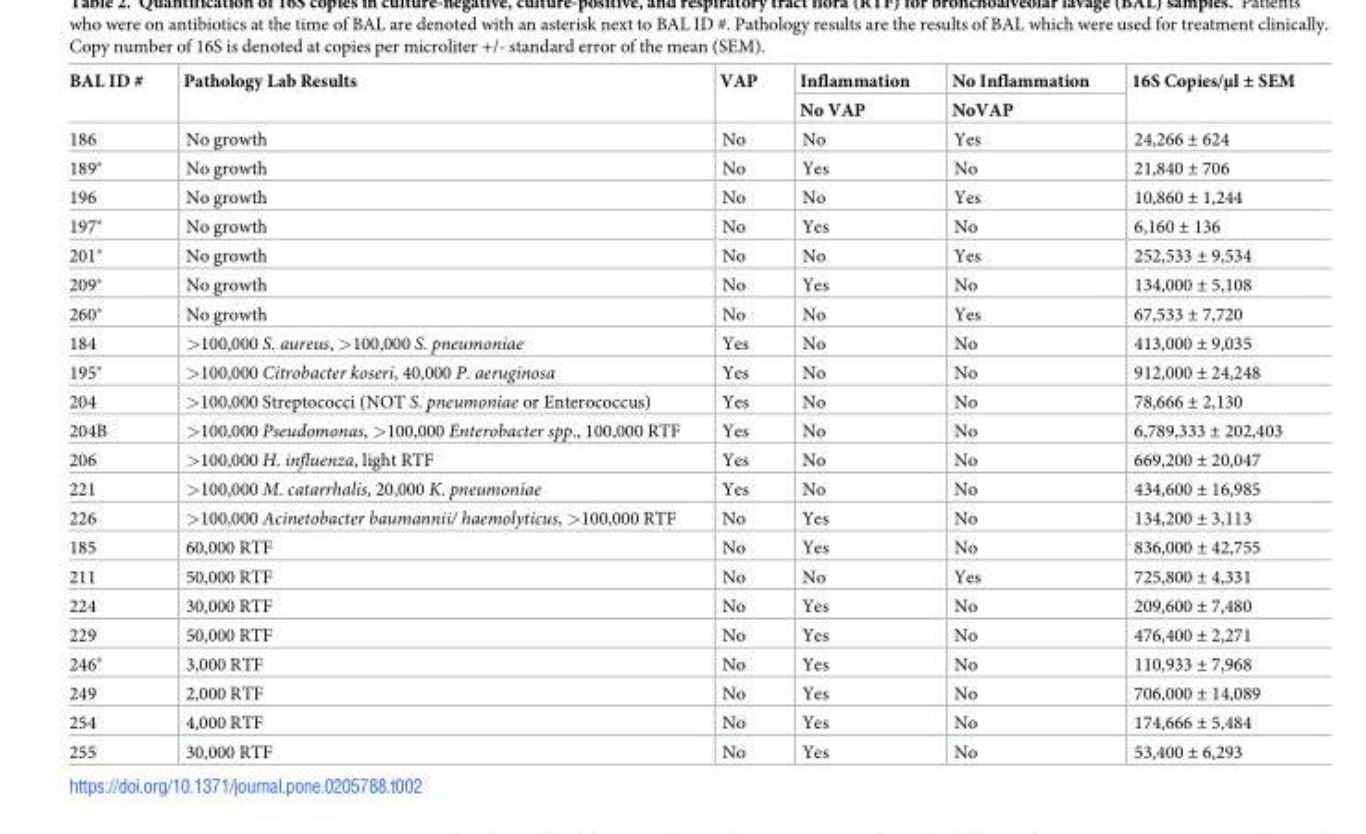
<table><thead><tr><td rowspan="2">BAL ID #</td><td rowspan="2">Pathology Lab Results</td><td rowspan="2">VAP</td><td rowspan="2">Inflammation No VAP</td><td rowspan="2">No Inflammation NoVAP</td><td rowspan="2">16S Copies/μl ± SEM</td></tr><tr></tr></thead><tbody><tr><td>186</td><td>No growth</td><td>No</td><td>No</td><td>Yes</td><td>24,266 ± 624</td></tr><tr><td>189*</td><td>No growth</td><td>No</td><td>Yes</td><td>No</td><td>21,840 ± 706</td></tr><tr><td>196</td><td>No growth</td><td>No</td><td>No</td><td>Yes</td><td>10,860 ± 1,244</td></tr><tr><td>197*</td><td>No growth</td><td>No</td><td>Yes</td><td>No</td><td>6,160 ± 136</td></tr><tr><td>201*</td><td>No growth</td><td>No</td><td>No</td><td>Yes</td><td>252,533 ± 9,534</td></tr><tr><td>209*</td><td>No growth</td><td>No</td><td>Yes</td><td>No</td><td>134,000 ± 5,108</td></tr><tr><td>260*</td><td>No growth</td><td>No</td><td>No</td><td>Yes</td><td>67,533 ± 7,720</td></tr><tr><td>184</td><td>&gt;100,000 S. aureus, &gt;100,000 S. pneumoniae</td><td>Yes</td><td>No</td><td>No</td><td>413,000 ± 9,035</td></tr><tr><td>195*</td><td>&gt;100,000 Citrobacter koseri, 40,000 P. aeruginosa</td><td>Yes</td><td>No</td><td>No</td><td>912,000 ± 24,248</td></tr><tr><td>204</td><td>&gt;100,000 Streptococci (NOT S. pneumoniae or Enterococcus)</td><td>Yes</td><td>No</td><td>No</td><td>78,666 ± 2,130</td></tr><tr><td>204B</td><td>&gt;100,000 Pseudomonas, &gt;100,000 Enterobacter spp., 100,000 RTF</td><td>Yes</td><td>No</td><td>No</td><td>6,789,333 ± 202,403</td></tr><tr><td>206</td><td>&gt;100,000 H. influenza, light RTF</td><td>Yes</td><td>No</td><td>No</td><td>669,200 ± 20,047</td></tr><tr><td>221</td><td>&gt;100,000 M. catarrhalis, 20,000 K. pneumoniae</td><td>Yes</td><td>No</td><td>No</td><td>434,600 ± 16,985</td></tr><tr><td>226</td><td>&gt;100,000 Acinetobacter baumannii/ haemolyticus, &gt;100,000 RTF</td><td>No</td><td>Yes</td><td>No</td><td>134,200 ± 3,113</td></tr><tr><td>185</td><td>60,000 RTF</td><td>No</td><td>Yes</td><td>No</td><td>836,000 ± 42,755</td></tr><tr><td>211</td><td>50,000 RTF</td><td>No</td><td>No</td><td>Yes</td><td>725,800 ± 4,331</td></tr><tr><td>224</td><td>30,000 RTF</td><td>No</td><td>Yes</td><td>No</td><td>209,600 ± 7,480</td></tr><tr><td>229</td><td>50,000 RTF</td><td>No</td><td>Yes</td><td>No</td><td>476,400 ± 2,271</td></tr><tr><td>246*</td><td>3,000 RTF</td><td>No</td><td>Yes</td><td>No</td><td>110,933 ± 7,968</td></tr><tr><td>249</td><td>2,000 RTF</td><td>No</td><td>Yes</td><td>No</td><td>706,000 ± 14,089</td></tr><tr><td>254</td><td>4,000 RTF</td><td>No</td><td>Yes</td><td>No</td><td>174,666 ± 5,484</td></tr><tr><td>255</td><td>30,000 RTF</td><td>No</td><td>Yes</td><td>No</td><td>53,400 ± 6,293</td></tr></tbody></table>